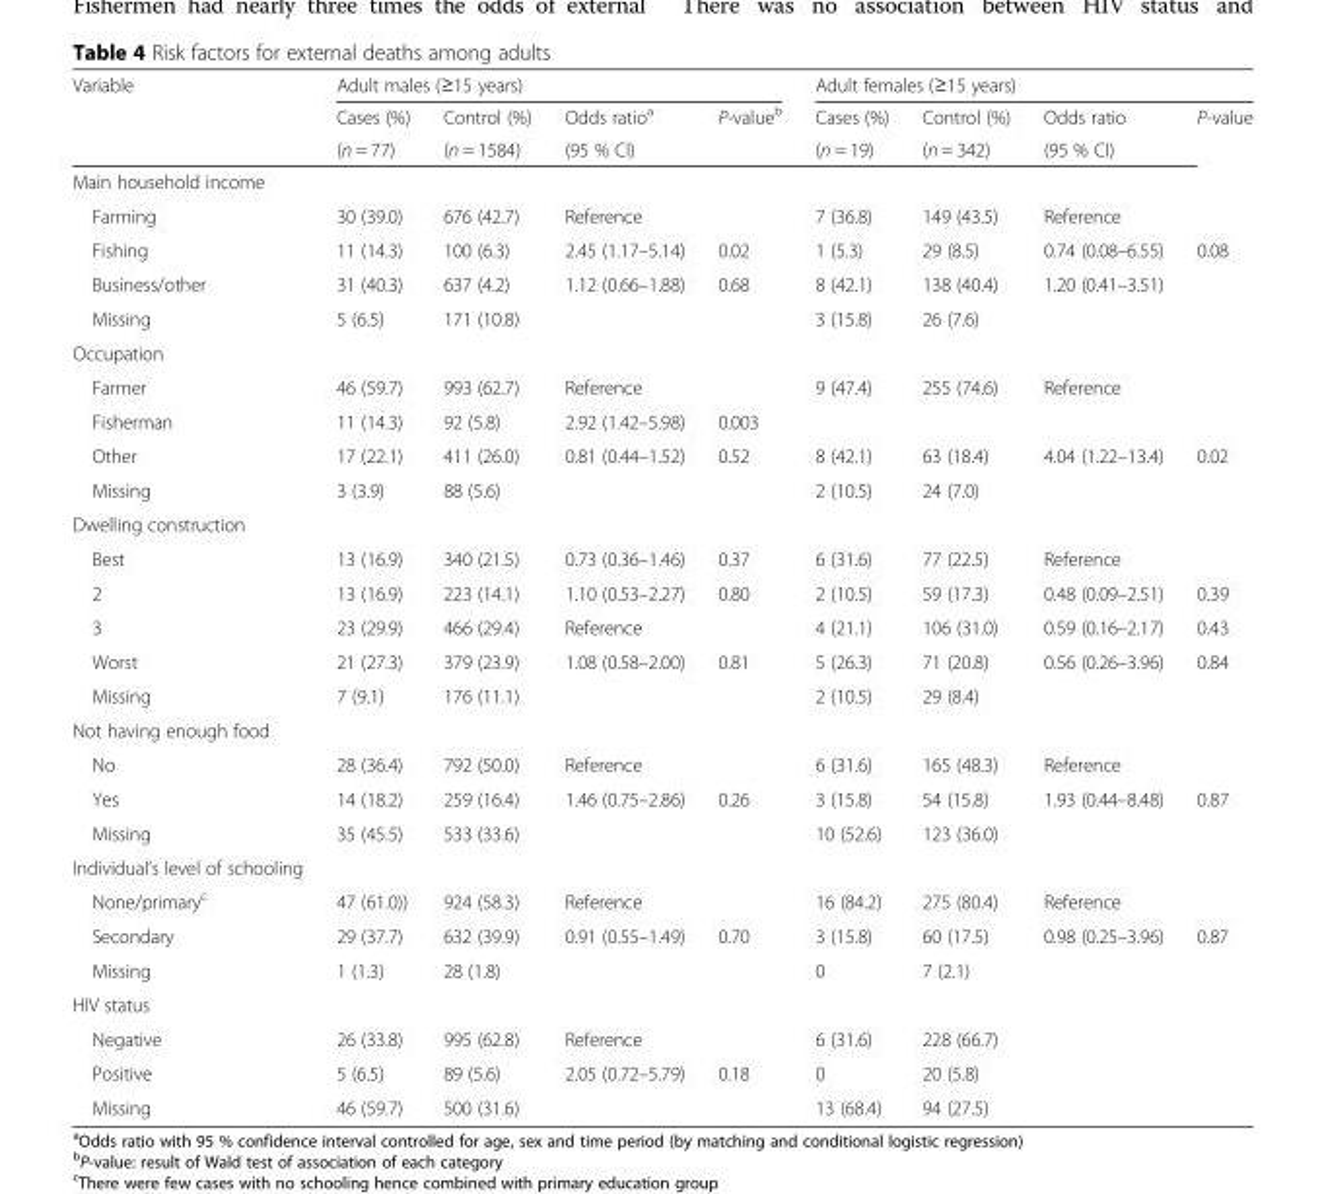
<table><thead><tr><td rowspan="3">Variable</td><td colspan="4">Adult males (≥15 years)</td><td colspan="4">Adult females (≥15 years)</td></tr><tr><td rowspan="2">Cases (%) (n = 77)</td><td rowspan="2">Control (%) (n = 1584)</td><td rowspan="2">Odds ratio<sup>a</sup> (95 % CI)</td><td rowspan="2">P-value<sup>b</sup></td><td rowspan="2">Cases (%) (n = 19)</td><td rowspan="2">Control (%) (n = 342)</td><td rowspan="2">Odds ratio (95 % CI)</td><td rowspan="2">P-value</td></tr><tr></tr></thead><tbody><tr><td colspan="9">Main household income</td></tr><tr><td>Farming</td><td>30 (39.0)</td><td>676 (42.7)</td><td>Reference</td><td></td><td>7 (36.8)</td><td>149 (43.5)</td><td>Reference</td><td></td></tr><tr><td>Fishing</td><td>11 (14.3)</td><td>100 (6.3)</td><td>2.45 (1.17–5.14)</td><td>0.02</td><td>1 (5.3)</td><td>29 (8.5)</td><td>0.74 (0.08–6.55)</td><td>0.08</td></tr><tr><td>Business/other</td><td>31 (40.3)</td><td>637 (4.2)</td><td>1.12 (0.66–1.88)</td><td>0.68</td><td>8 (42.1)</td><td>138 (40.4)</td><td>1.20 (0.41–3.51)</td><td></td></tr><tr><td>Missing</td><td>5 (6.5)</td><td>171 (10.8)</td><td></td><td></td><td>3 (15.8)</td><td>26 (7.6)</td><td></td><td></td></tr><tr><td colspan="9">Occupation</td></tr><tr><td>Farmer</td><td>46 (59.7)</td><td>993 (62.7)</td><td>Reference</td><td></td><td>9 (47.4)</td><td>255 (74.6)</td><td>Reference</td><td></td></tr><tr><td>Fisherman</td><td>11 (14.3)</td><td>92 (5.8)</td><td>2.92 (1.42–5.98)</td><td>0.003</td><td></td><td></td><td></td><td></td></tr><tr><td>Other</td><td>17 (22.1)</td><td>411 (26.0)</td><td>0.81 (0.44–1.52)</td><td>0.52</td><td>8 (42.1)</td><td>63 (18.4)</td><td>4.04 (1.22–13.4)</td><td>0.02</td></tr><tr><td>Missing</td><td>3 (3.9)</td><td>88 (5.6)</td><td></td><td></td><td>2 (10.5)</td><td>24 (7.0)</td><td></td><td></td></tr><tr><td colspan="9">Dwelling construction</td></tr><tr><td>Best</td><td>13 (16.9)</td><td>340 (21.5)</td><td>0.73 (0.36–1.46)</td><td>0.37</td><td>6 (31.6)</td><td>77 (22.5)</td><td>Reference</td><td></td></tr><tr><td>2</td><td>13 (16.9)</td><td>223 (14.1)</td><td>1.10 (0.53–2.27)</td><td>0.80</td><td>2 (10.5)</td><td>59 (17.3)</td><td>0.48 (0.09–2.51)</td><td>0.39</td></tr><tr><td>3</td><td>23 (29.9)</td><td>466 (29.4)</td><td>Reference</td><td></td><td>4 (21.1)</td><td>106 (31.0)</td><td>0.59 (0.16–2.17)</td><td>0.43</td></tr><tr><td>Worst</td><td>21 (27.3)</td><td>379 (23.9)</td><td>1.08 (0.58–2.00)</td><td>0.81</td><td>5 (26.3)</td><td>71 (20.8)</td><td>0.56 (0.26–3.96)</td><td>0.84</td></tr><tr><td>Missing</td><td>7 (9.1)</td><td>176 (11.1)</td><td></td><td></td><td>2 (10.5)</td><td>29 (8.4)</td><td></td><td></td></tr><tr><td colspan="9">Not having enough food</td></tr><tr><td>No</td><td>28 (36.4)</td><td>792 (50.0)</td><td>Reference</td><td></td><td>6 (31.6)</td><td>165 (48.3)</td><td>Reference</td><td></td></tr><tr><td>Yes</td><td>14 (18.2)</td><td>259 (16.4)</td><td>1.46 (0.75–2.86)</td><td>0.26</td><td>3 (15.8)</td><td>54 (15.8)</td><td>1.93 (0.44–8.48)</td><td>0.87</td></tr><tr><td>Missing</td><td>35 (45.5)</td><td>533 (33.6)</td><td></td><td></td><td>10 (52.6)</td><td>123 (36.0)</td><td></td><td></td></tr><tr><td colspan="9">Individual’s level of schooling</td></tr><tr><td>None/primary<sup>c</sup></td><td>47 (61.0))</td><td>924 (58.3)</td><td>Reference</td><td></td><td>16 (84.2)</td><td>275 (80.4)</td><td>Reference</td><td></td></tr><tr><td>Secondary</td><td>29 (37.7)</td><td>632 (39.9)</td><td>0.91 (0.55–1.49)</td><td>0.70</td><td>3 (15.8)</td><td>60 (17.5)</td><td>0.98 (0.25–3.96)</td><td>0.87</td></tr><tr><td>Missing</td><td>1 (1.3)</td><td>28 (1.8)</td><td></td><td></td><td>0</td><td>7 (2.1)</td><td></td><td></td></tr><tr><td colspan="9">HIV status</td></tr><tr><td>Negative</td><td>26 (33.8)</td><td>995 (62.8)</td><td>Reference</td><td></td><td>6 (31.6)</td><td>228 (66.7)</td><td></td><td></td></tr><tr><td>Positive</td><td>5 (6.5)</td><td>89 (5.6)</td><td>2.05 (0.72–5.79)</td><td>0.18</td><td>0</td><td>20 (5.8)</td><td></td><td></td></tr><tr><td>Missing</td><td>46 (59.7)</td><td>500 (31.6)</td><td></td><td></td><td>13 (68.4)</td><td>94 (27.5)</td><td></td><td></td></tr></tbody></table>